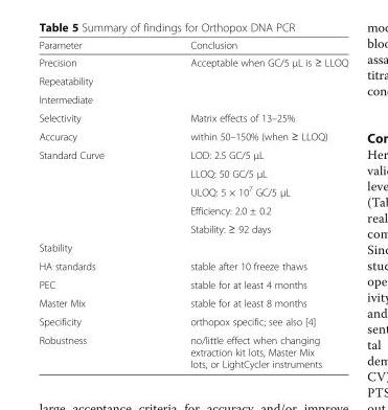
<table><thead><tr><td>Parameter</td><td>Conclusion</td></tr></thead><tbody><tr><td>Precision</td><td rowspan="3">Acceptable when GC/5 μL is ≥ LLOQ</td></tr><tr><td>Repeatability</td></tr><tr><td>Intermediate</td></tr><tr><td>Selectivity</td><td>Matrix effects of 13–25%</td></tr><tr><td>Accuracy</td><td>within 50–150% (when ≥ LLOQ)</td></tr><tr><td rowspan="5">Standard Curve</td><td>LOD: 2.5 GC/5 μL</td></tr><tr><td>LLOQ: 50 GC/5 μL</td></tr><tr><td>ULOQ: 5 × 10<sup>7</sup> GC/5 μL</td></tr><tr><td>Efficiency: 2.0 ± 0.2</td></tr><tr><td>Stability: ≥ 92 days</td></tr><tr><td colspan="2">Stability</td></tr><tr><td>HA standards</td><td>stable after 10 freeze thaws</td></tr><tr><td>PEC</td><td>stable for at least 4 months</td></tr><tr><td>Master Mix</td><td>stable for at least 8 months</td></tr><tr><td>Specificity</td><td>orthopox specific; see also [4]</td></tr><tr><td>Robustness</td><td>no/little effect when changing extraction kit lots, Master Mix lots, or LightCycler instruments</td></tr></tbody></table>